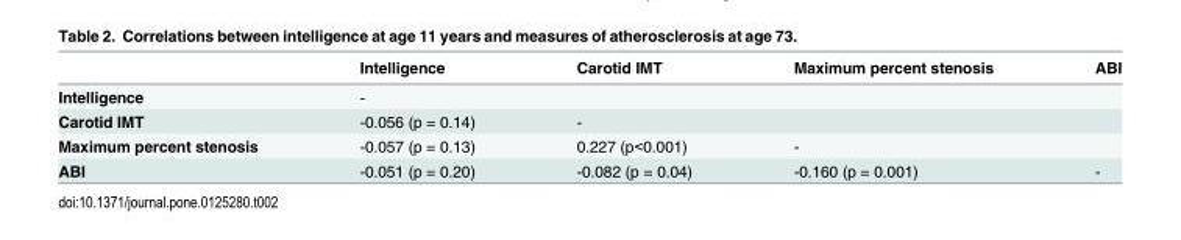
<table><thead><tr><td></td><td>Intelligence</td><td>Carotid IMT</td><td>Maximum percent stenosis</td><td>ABI</td></tr></thead><tbody><tr><td>Intelligence</td><td>-</td><td></td><td></td><td></td></tr><tr><td>Carotid IMT</td><td>-0.056 (p = 0.14)</td><td>-</td><td></td><td></td></tr><tr><td>Maximum percent stenosis</td><td>-0.057 (p = 0.13)</td><td>0.227 (p&lt;0.001)</td><td>-</td><td></td></tr><tr><td>ABI</td><td>-0.051 (p = 0.20)</td><td>-0.082 (p = 0.04)</td><td>-0.160 (p = 0.001)</td><td>-</td></tr></tbody></table>